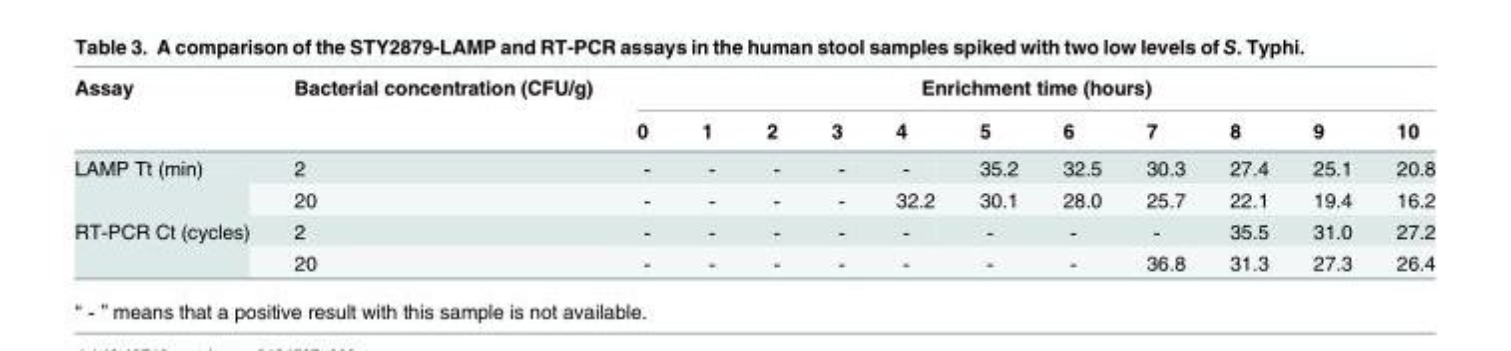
<table><thead><tr><td rowspan="2">Assay</td><td rowspan="2">Bacterial concentration (CFU/g)</td><td colspan="11">Enrichment time (hours)</td></tr><tr><td>0</td><td>1</td><td>2</td><td>3</td><td>4</td><td>5</td><td>6</td><td>7</td><td>8</td><td>9</td><td>10</td></tr></thead><tbody><tr><td rowspan="2">LAMP Tt (min)</td><td>2</td><td>－</td><td>－</td><td>－</td><td>－</td><td>－</td><td>35.2</td><td>32.5</td><td>30.3</td><td>27.4</td><td>25.1</td><td>20.8</td></tr><tr><td>20</td><td>－</td><td>－</td><td>－</td><td>－</td><td>32.2</td><td>30.1</td><td>28.0</td><td>25.7</td><td>22.1</td><td>19.4</td><td>16.2</td></tr><tr><td rowspan="2">RT-PCR Ct (cycles)</td><td>2</td><td>－</td><td>－</td><td>－</td><td>－</td><td>－</td><td>－</td><td>－</td><td>－</td><td>35.5</td><td>31.0</td><td>27.2</td></tr><tr><td>20</td><td>－</td><td>－</td><td>－</td><td>－</td><td>－</td><td>－</td><td>－</td><td>36.8</td><td>31.3</td><td>27.3</td><td>26.4</td></tr></tbody></table>